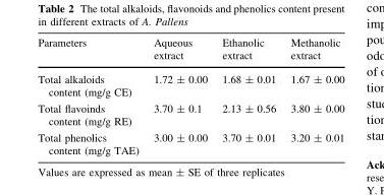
<table><thead><tr><td>Parameters</td><td>Aqueous extract</td><td>Ethanolic extract</td><td>Methanolic extract</td></tr></thead><tbody><tr><td>Total alkaloids content (mg/g CE)</td><td>1.72 ± 0.00</td><td>1.68 ± 0.01</td><td>1.67 ± 0.00</td></tr><tr><td>Total flavoinds content (mg/g RE)</td><td>3.70 ± 0.1</td><td>2.13 ± 0.56</td><td>3.80 ± 0.00</td></tr><tr><td>Total phenolics content (mg/g TAE)</td><td>3.00 ± 0.00</td><td>3.70 ± 0.01</td><td>3.20 ± 0.01</td></tr></tbody></table>